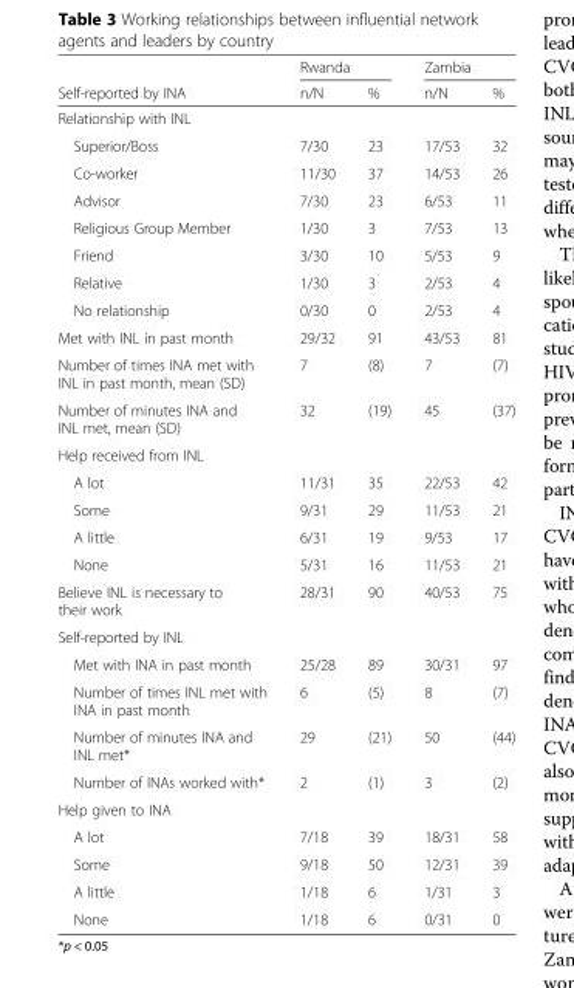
<table><thead><tr><td rowspan="2">Self-reported by INA</td><td colspan="2">Rwanda</td><td colspan="2">Zambia</td></tr><tr><td>n/N</td><td>%</td><td>n/N</td><td>%</td></tr></thead><tbody><tr><td colspan="5">Relationship with INL</td></tr><tr><td>Superior/Boss</td><td>7/30</td><td>23</td><td>17/53</td><td>32</td></tr><tr><td>Co-worker</td><td>11/30</td><td>37</td><td>14/53</td><td>26</td></tr><tr><td>Advisor</td><td>7/30</td><td>23</td><td>6/53</td><td>11</td></tr><tr><td>Religious Group Member</td><td>1/30</td><td>3</td><td>7/53</td><td>13</td></tr><tr><td>Friend</td><td>3/30</td><td>10</td><td>5/53</td><td>9</td></tr><tr><td>Relative</td><td>1/30</td><td>3</td><td>2/53</td><td>4</td></tr><tr><td>No relationship</td><td>0/30</td><td>0</td><td>2/53</td><td>4</td></tr><tr><td>Met with INL in past month</td><td>29/32</td><td>91</td><td>43/53</td><td>81</td></tr><tr><td>Number of times INA met with INL in past month, mean (SD)</td><td>7</td><td>(8)</td><td>7</td><td>(7)</td></tr><tr><td>Number of minutes INA and INL met, mean (SD)</td><td>32</td><td>(19)</td><td>45</td><td>(37)</td></tr><tr><td colspan="5">Help received from INL</td></tr><tr><td>A lot</td><td>11/31</td><td>35</td><td>22/53</td><td>42</td></tr><tr><td>Some</td><td>9/31</td><td>29</td><td>11/53</td><td>21</td></tr><tr><td>A little</td><td>6/31</td><td>19</td><td>9/53</td><td>17</td></tr><tr><td>None</td><td>5/31</td><td>16</td><td>11/53</td><td>21</td></tr><tr><td>Believe INL is necessary to their work</td><td>28/31</td><td>90</td><td>40/53</td><td>75</td></tr><tr><td colspan="5">Self-reported by INL</td></tr><tr><td>Met with INA in past month</td><td>25/28</td><td>89</td><td>30/31</td><td>97</td></tr><tr><td>Number of times INL met with INA in past month</td><td>6</td><td>(5)</td><td>8</td><td>(7)</td></tr><tr><td>Number of minutes INA and INL met*</td><td>29</td><td>(21)</td><td>50</td><td>(44)</td></tr><tr><td>Number of INAs worked with*</td><td>2</td><td>(1)</td><td>3</td><td>(2)</td></tr><tr><td colspan="5">Help given to INA</td></tr><tr><td>A lot</td><td>7/18</td><td>39</td><td>18/31</td><td>58</td></tr><tr><td>Some</td><td>9/18</td><td>50</td><td>12/31</td><td>39</td></tr><tr><td>A little</td><td>1/18</td><td>6</td><td>1/31</td><td>3</td></tr><tr><td>None</td><td>1/18</td><td>6</td><td>0/31</td><td>0</td></tr></tbody></table>